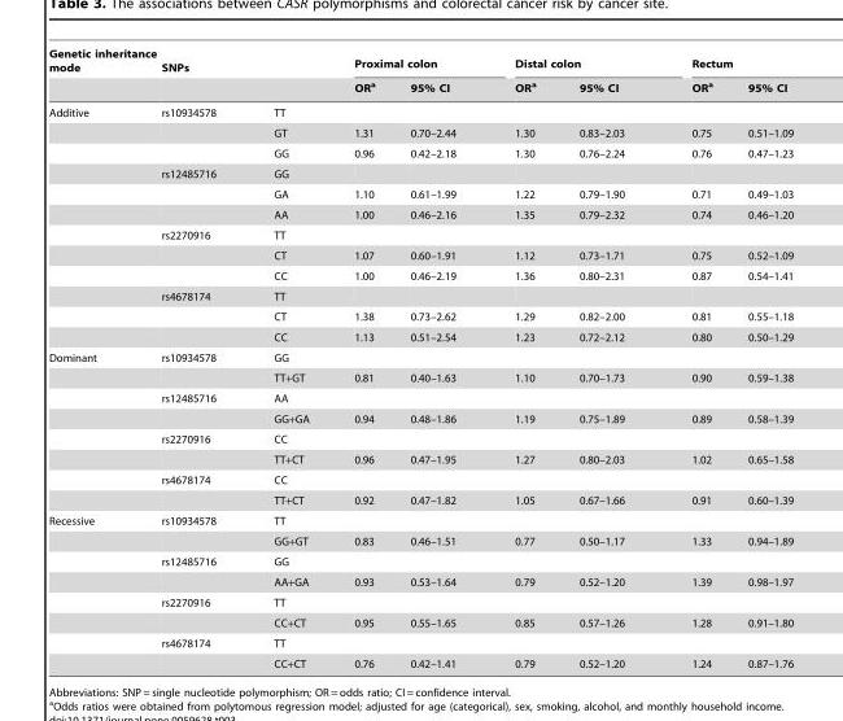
<table><thead><tr><td rowspan="2">Genetic inheritance mode</td><td colspan="2">SNPs</td><td colspan="2">Proximal colon</td><td colspan="2">Distal colon</td><td colspan="2">Rectum</td></tr><tr><td></td><td></td><td>OR<sup>a</sup></td><td>95% CI</td><td>OR<sup>a</sup></td><td>95% CI</td><td>OR<sup>a</sup></td><td>95% CI</td></tr></thead><tbody><tr><td rowspan="12">Additive</td><td>rs10934578</td><td>TT</td><td></td><td></td><td></td><td></td><td></td><td></td></tr><tr><td></td><td>GT</td><td>1.31</td><td>0.70–2.44</td><td>1.30</td><td>0.83–2.03</td><td>0.75</td><td>0.51–1.09</td></tr><tr><td></td><td>GG</td><td>0.96</td><td>0.42–2.18</td><td>1.30</td><td>0.76–2.24</td><td>0.76</td><td>0.47–1.23</td></tr><tr><td>rs12485716</td><td>GG</td><td></td><td></td><td></td><td></td><td></td><td></td></tr><tr><td></td><td>GA</td><td>1.10</td><td>0.61–1.99</td><td>1.22</td><td>0.79–1.90</td><td>0.71</td><td>0.49–1.03</td></tr><tr><td></td><td>AA</td><td>1.00</td><td>0.46–2.16</td><td>1.35</td><td>0.79–2.32</td><td>0.74</td><td>0.46–1.20</td></tr><tr><td>rs2270916</td><td>TT</td><td></td><td></td><td></td><td></td><td></td><td></td></tr><tr><td></td><td>CT</td><td>1.07</td><td>0.60–1.91</td><td>1.12</td><td>0.73–1.71</td><td>0.75</td><td>0.52–1.09</td></tr><tr><td></td><td>CC</td><td>1.00</td><td>0.46–2.19</td><td>1.36</td><td>0.80–2.31</td><td>0.87</td><td>0.54–1.41</td></tr><tr><td>rs4678174</td><td>TT</td><td></td><td></td><td></td><td></td><td></td><td></td></tr><tr><td></td><td>CT</td><td>1.38</td><td>0.73–2.62</td><td>1.29</td><td>0.82–2.00</td><td>0.81</td><td>0.55–1.18</td></tr><tr><td></td><td>CC</td><td>1.13</td><td>0.51–2.54</td><td>1.23</td><td>0.72–2.12</td><td>0.80</td><td>0.50–1.29</td></tr><tr><td rowspan="8">Dominant</td><td>rs10934578</td><td>GG</td><td></td><td></td><td></td><td></td><td></td><td></td></tr><tr><td></td><td>TT+GT</td><td>0.81</td><td>0.40–1.63</td><td>1.10</td><td>0.70–1.73</td><td>0.90</td><td>0.59–1.38</td></tr><tr><td>rs12485716</td><td>AA</td><td></td><td></td><td></td><td></td><td></td><td></td></tr><tr><td></td><td>GG+GA</td><td>0.94</td><td>0.48–1.86</td><td>1.19</td><td>0.75–1.89</td><td>0.89</td><td>0.58–1.39</td></tr><tr><td>rs2270916</td><td>CC</td><td></td><td></td><td></td><td></td><td></td><td></td></tr><tr><td></td><td>TT+CT</td><td>0.96</td><td>0.47–1.95</td><td>1.27</td><td>0.80–2.03</td><td>1.02</td><td>0.65–1.58</td></tr><tr><td>rs4678174</td><td>CC</td><td></td><td></td><td></td><td></td><td></td><td></td></tr><tr><td></td><td>TT+CT</td><td>0.92</td><td>0.47–1.82</td><td>1.05</td><td>0.67–1.66</td><td>0.91</td><td>0.60–1.39</td></tr><tr><td rowspan="8">Recessive</td><td>rs10934578</td><td>TT</td><td></td><td></td><td></td><td></td><td></td><td></td></tr><tr><td></td><td>GG+GT</td><td>0.83</td><td>0.46–1.51</td><td>0.77</td><td>0.50–1.17</td><td>1.33</td><td>0.94–1.89</td></tr><tr><td>rs12485716</td><td>GG</td><td></td><td></td><td></td><td></td><td></td><td></td></tr><tr><td></td><td>AA+GA</td><td>0.93</td><td>0.53–1.64</td><td>0.79</td><td>0.52–1.20</td><td>1.39</td><td>0.98–1.97</td></tr><tr><td>rs2270916</td><td>TT</td><td></td><td></td><td></td><td></td><td></td><td></td></tr><tr><td></td><td>CC+CT</td><td>0.95</td><td>0.55–1.65</td><td>0.85</td><td>0.57–1.26</td><td>1.28</td><td>0.91–1.80</td></tr><tr><td>rs4678174</td><td>TT</td><td></td><td></td><td></td><td></td><td></td><td></td></tr><tr><td></td><td>CC+CT</td><td>0.76</td><td>0.42–1.41</td><td>0.79</td><td>0.52–1.20</td><td>1.24</td><td>0.87–1.76</td></tr></tbody></table>